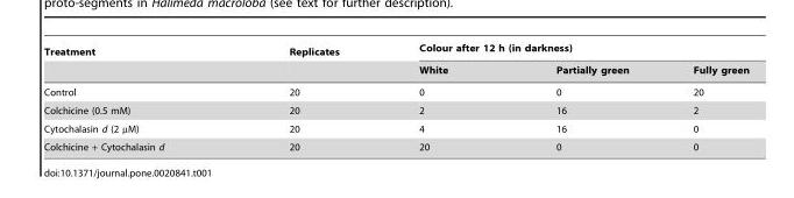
<table><thead><tr><td rowspan="2">Treatment</td><td rowspan="2">Replicates</td><td colspan="3">Colour after 12 h (in darkness)</td></tr><tr><td>White</td><td>Partially green</td><td>Fully green</td></tr></thead><tbody><tr><td>Control</td><td>20</td><td>0</td><td>0</td><td>20</td></tr><tr><td>Colchicine (0.5 mM)</td><td>20</td><td>2</td><td>16</td><td>2</td></tr><tr><td>Cytochalasin d (2 µM)</td><td>20</td><td>4</td><td>16</td><td>0</td></tr><tr><td>Colchicine + Cytochalasin d</td><td>20</td><td>20</td><td>0</td><td>0</td></tr></tbody></table>